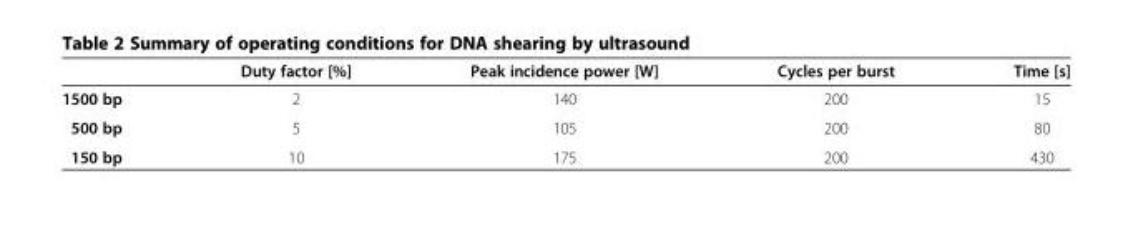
<table><thead><tr><td></td><td>Duty factor [%]</td><td>Peak incidence power [W]</td><td>Cycles per burst</td><td>Time [s]</td></tr></thead><tbody><tr><td>1500 bp</td><td>2</td><td>140</td><td>200</td><td>15</td></tr><tr><td>500 bp</td><td>5</td><td>105</td><td>200</td><td>80</td></tr><tr><td>150 bp</td><td>10</td><td>175</td><td>200</td><td>430</td></tr></tbody></table>